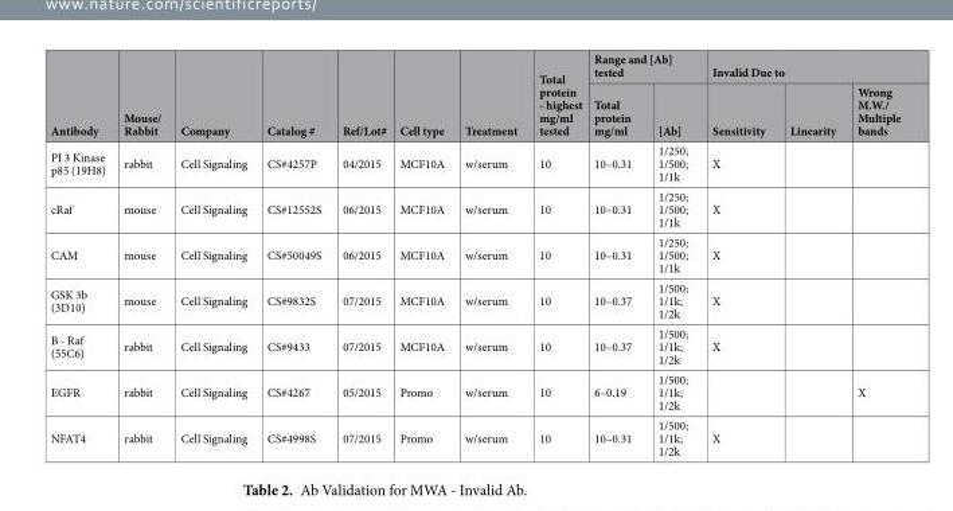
<table><thead><tr><td rowspan="2">Antibody</td><td rowspan="2">Mouse/ Rabbit</td><td rowspan="2">Company</td><td rowspan="2">Catalog #</td><td rowspan="2">Ref/Lot#</td><td rowspan="2">Cell type</td><td rowspan="2">Treatment</td><td rowspan="2">Total protein - highest mg/ml tested</td><td colspan="2">Range and [Ab] tested</td><td colspan="3">Invalid Due to</td></tr><tr><td>Total protein mg/ml</td><td>[Ab]</td><td>Sensitivity</td><td>Linearity</td><td>Wrong M.W./ Multiple bands</td></tr></thead><tbody><tr><td>PI 3 Kinase p85 (19H8)</td><td>rabbit</td><td>Cell Signaling</td><td>CS#4257P</td><td>04/2015</td><td>MCF10A</td><td>w/serum</td><td>10</td><td>10–0.31</td><td>1/250; 1/500; 1/1k</td><td>X</td><td></td><td></td></tr><tr><td>cRaf</td><td>mouse</td><td>Cell Signaling</td><td>CS#12552S</td><td>06/2015</td><td>MCF10A</td><td>w/serum</td><td>10</td><td>10–0.31</td><td>1/250; 1/500; 1/1k</td><td>X</td><td></td><td></td></tr><tr><td>CAM</td><td>mouse</td><td>Cell Signaling</td><td>CS#50049S</td><td>06/2015</td><td>MCF10A</td><td>w/serum</td><td>10</td><td>10–0.31</td><td>1/250; 1/500; 1/1k</td><td>X</td><td></td><td></td></tr><tr><td>GSK 3b (3D10)</td><td>mouse</td><td>Cell Signaling</td><td>CS#9832S</td><td>07/2015</td><td>MCF10A</td><td>w/serum</td><td>10</td><td>10–0.37</td><td>1/500; 1/1k; 1/2k</td><td>X</td><td></td><td></td></tr><tr><td>B - Raf (55C6)</td><td>rabbit</td><td>Cell Signaling</td><td>CS#9433</td><td>07/2015</td><td>MCF10A</td><td>w/serum</td><td>10</td><td>10–0.37</td><td>1/500; 1/1k; 1/2k</td><td>X</td><td></td><td></td></tr><tr><td>EGFR</td><td>rabbit</td><td>Cell Signaling</td><td>CS#4267</td><td>05/2015</td><td>Promo</td><td>w/serum</td><td>10</td><td>6–0.19</td><td>1/500; 1/1k; 1/2k</td><td></td><td></td><td>X</td></tr><tr><td>NFAT4</td><td>rabbit</td><td>Cell Signaling</td><td>CS#4998S</td><td>07/2015</td><td>Promo</td><td>w/serum</td><td>10</td><td>10–0.31</td><td>1/500; 1/1k; 1/2k</td><td>X</td><td></td><td></td></tr></tbody></table>